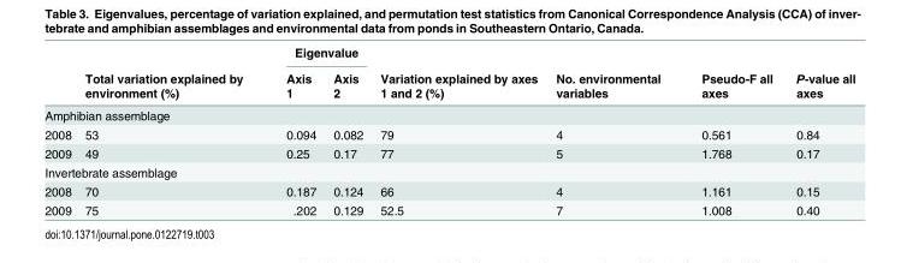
<table><thead><tr><td rowspan="2"></td><td rowspan="2">Total variation explained by environment (%)</td><td colspan="2">Eigenvalue</td><td rowspan="2">Variation explained by axes 1 and 2 (%)</td><td rowspan="2">No. environmental variables</td><td rowspan="2">Pseudo-F all axes</td><td rowspan="2">P-value all axes</td></tr><tr><td>Axis 1</td><td>Axis 2</td></tr></thead><tbody><tr><td colspan="8">Amphibian assemblage</td></tr><tr><td>2008</td><td>53</td><td>0.094</td><td>0.082</td><td>79</td><td>4</td><td>0.561</td><td>0.84</td></tr><tr><td>2009</td><td>49</td><td>0.25</td><td>0.17</td><td>77</td><td>5</td><td>1.768</td><td>0.17</td></tr><tr><td colspan="8">Invertebrate assemblage</td></tr><tr><td>2008</td><td>70</td><td>0.187</td><td>0.124</td><td>66</td><td>4</td><td>1.161</td><td>0.15</td></tr><tr><td>2009</td><td>75</td><td>.202</td><td>0.129</td><td>52.5</td><td>7</td><td>1.008</td><td>0.40</td></tr></tbody></table>